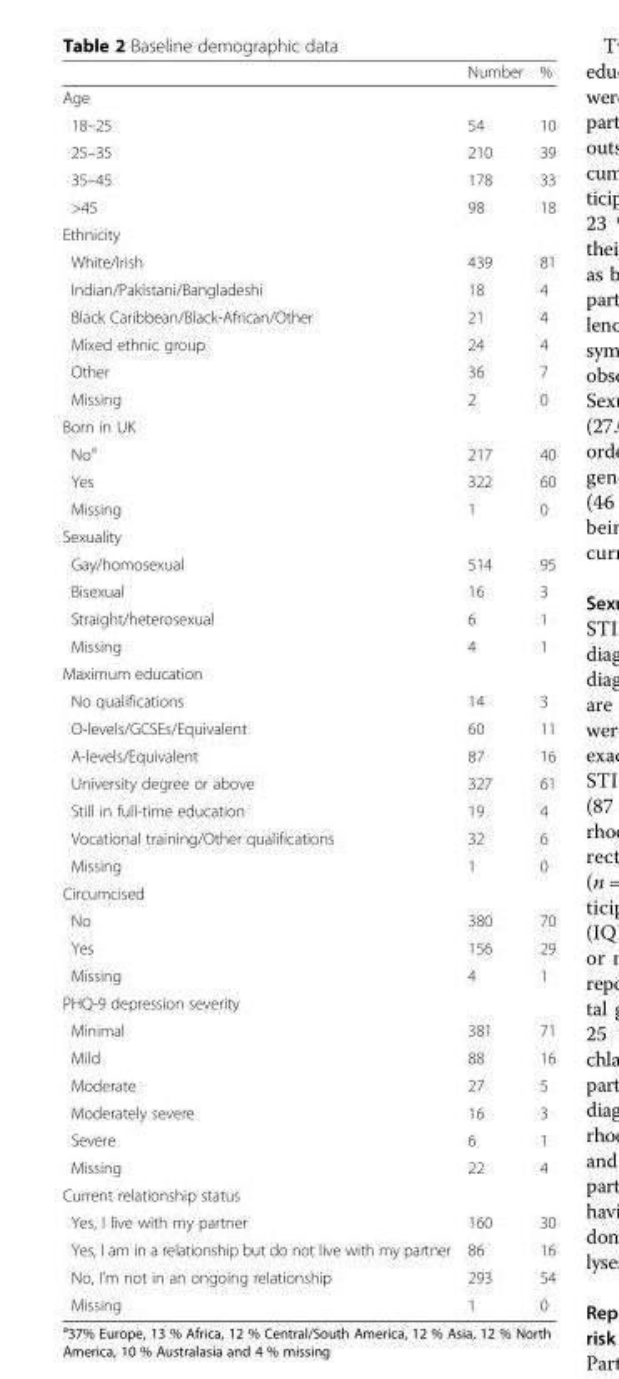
<table><thead><tr><td></td><td>Number</td><td>%</td></tr></thead><tbody><tr><td colspan="3">Age</td></tr><tr><td>18–25</td><td>54</td><td>10</td></tr><tr><td>25–35</td><td>210</td><td>39</td></tr><tr><td>35–45</td><td>178</td><td>33</td></tr><tr><td>&gt;45</td><td>98</td><td>18</td></tr><tr><td colspan="3">Ethnicity</td></tr><tr><td>White/Irish</td><td>439</td><td>81</td></tr><tr><td>Indian/Pakistani/Bangladeshi</td><td>18</td><td>4</td></tr><tr><td>Black Caribbean/Black-African/Other</td><td>21</td><td>4</td></tr><tr><td>Mixed ethnic group</td><td>24</td><td>4</td></tr><tr><td>Other</td><td>36</td><td>7</td></tr><tr><td>Missing</td><td>2</td><td>0</td></tr><tr><td colspan="3">Born in UK</td></tr><tr><td>No<sup>a</sup></td><td>217</td><td>40</td></tr><tr><td>Yes</td><td>322</td><td>60</td></tr><tr><td>Missing</td><td>1</td><td>0</td></tr><tr><td colspan="3">Sexuality</td></tr><tr><td>Gay/homosexual</td><td>514</td><td>95</td></tr><tr><td>Bisexual</td><td>16</td><td>3</td></tr><tr><td>Straight/heterosexual</td><td>6</td><td>1</td></tr><tr><td>Missing</td><td>4</td><td>1</td></tr><tr><td colspan="3">Maximum education</td></tr><tr><td>No qualifications</td><td>14</td><td>3</td></tr><tr><td>O-levels/GCSEs/Equivalent</td><td>60</td><td>11</td></tr><tr><td>A-levels/Equivalent</td><td>87</td><td>16</td></tr><tr><td>University degree or above</td><td>327</td><td>61</td></tr><tr><td>Still in full-time education</td><td>19</td><td>4</td></tr><tr><td>Vocational training/Other qualifications</td><td>32</td><td>6</td></tr><tr><td>Missing</td><td>1</td><td>0</td></tr><tr><td colspan="3">Circumcised</td></tr><tr><td>No</td><td>380</td><td>70</td></tr><tr><td>Yes</td><td>156</td><td>29</td></tr><tr><td>Missing</td><td>4</td><td>1</td></tr><tr><td colspan="3">PHQ-9 depression severity</td></tr><tr><td>Minimal</td><td>381</td><td>71</td></tr><tr><td>Mild</td><td>88</td><td>16</td></tr><tr><td>Moderate</td><td>27</td><td>5</td></tr><tr><td>Moderately severe</td><td>16</td><td>3</td></tr><tr><td>Severe</td><td>6</td><td>1</td></tr><tr><td>Missing</td><td>22</td><td>4</td></tr><tr><td colspan="3">Current relationship status</td></tr><tr><td>Yes, I live with my partner</td><td>160</td><td>30</td></tr><tr><td>Yes, I am in a relationship but do not live with my partner</td><td>86</td><td>16</td></tr><tr><td>No, I’m not in an ongoing relationship</td><td>293</td><td>54</td></tr><tr><td>Missing</td><td>1</td><td>0</td></tr></tbody></table>